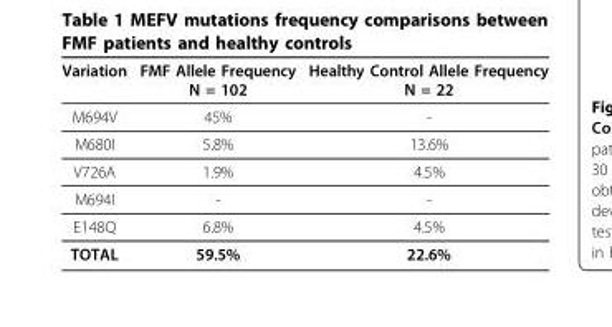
<table><thead><tr><td>Variation</td><td>FMF Allele Frequency N = 102</td><td>Healthy Control Allele Frequency N = 22</td></tr></thead><tbody><tr><td>M694V</td><td>45%</td><td>-</td></tr><tr><td>M680I</td><td>5.8%</td><td>13.6%</td></tr><tr><td>V726A</td><td>1.9%</td><td>4.5%</td></tr><tr><td>M694I</td><td>-</td><td>-</td></tr><tr><td>E148Q</td><td>6.8%</td><td>4.5%</td></tr><tr><td>TOTAL</td><td>59.5%</td><td>22.6%</td></tr></tbody></table>